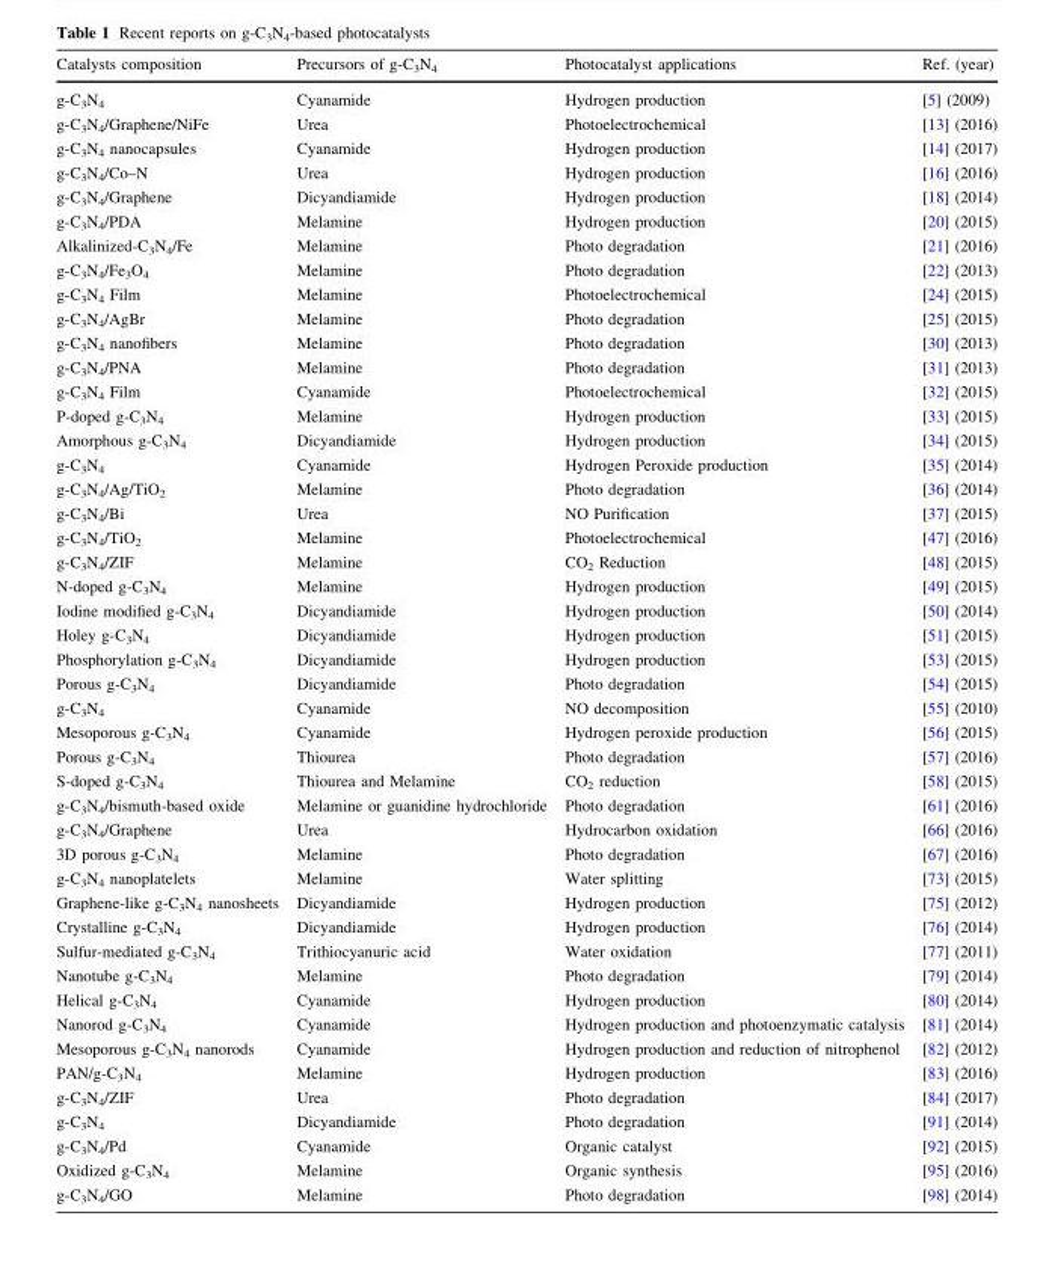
<table><thead><tr><td>Catalysts composition</td><td>Precursors of g-C<sub>3</sub>N<sub>4</sub></td><td>Photocatalyst applications</td><td>Ref. (year)</td></tr></thead><tbody><tr><td>g-C<sub>3</sub>N<sub>4</sub></td><td>Cyanamide</td><td>Hydrogen production</td><td>[5] (2009)</td></tr><tr><td>g-C<sub>3</sub>N<sub>4</sub>/Graphene/NiFe</td><td>Urea</td><td>Photoelectrochemical</td><td>[13] (2016)</td></tr><tr><td>g-C<sub>3</sub>N<sub>4</sub> nanocapsules</td><td>Cyanamide</td><td>Hydrogen production</td><td>[14] (2017)</td></tr><tr><td>g-C<sub>3</sub>N<sub>4</sub>/Co–N</td><td>Urea</td><td>Hydrogen production</td><td>[16] (2016)</td></tr><tr><td>g-C<sub>3</sub>N<sub>4</sub>/Graphene</td><td>Dicyandiamide</td><td>Hydrogen production</td><td>[18] (2014)</td></tr><tr><td>g-C<sub>3</sub>N<sub>4</sub>/PDA</td><td>Melamine</td><td>Hydrogen production</td><td>[20] (2015)</td></tr><tr><td>Alkalinized-C<sub>3</sub>N<sub>4</sub>/Fe</td><td>Melamine</td><td>Photo degradation</td><td>[21] (2016)</td></tr><tr><td>g-C<sub>3</sub>N<sub>4</sub>/Fe<sub>3</sub>O<sub>4</sub></td><td>Melamine</td><td>Photo degradation</td><td>[22] (2013)</td></tr><tr><td>g-C<sub>3</sub>N<sub>4</sub> Film</td><td>Melamine</td><td>Photoelectrochemical</td><td>[24] (2015)</td></tr><tr><td>g-C<sub>3</sub>N<sub>4</sub>/AgBr</td><td>Melamine</td><td>Photo degradation</td><td>[25] (2015)</td></tr><tr><td>g-C<sub>3</sub>N<sub>4</sub> nanofibers</td><td>Melamine</td><td>Photo degradation</td><td>[30] (2013)</td></tr><tr><td>g-C<sub>3</sub>N<sub>4</sub>/PNA</td><td>Melamine</td><td>Photo degradation</td><td>[31] (2013)</td></tr><tr><td>g-C<sub>3</sub>N<sub>4</sub> Film</td><td>Cyanamide</td><td>Photoelectrochemical</td><td>[32] (2015)</td></tr><tr><td>P-doped g-C<sub>3</sub>N<sub>4</sub></td><td>Melamine</td><td>Hydrogen production</td><td>[33] (2015)</td></tr><tr><td>Amorphous g-C<sub>3</sub>N<sub>4</sub></td><td>Dicyandiamide</td><td>Hydrogen production</td><td>[34] (2015)</td></tr><tr><td>g-C<sub>3</sub>N<sub>4</sub></td><td>Cyanamide</td><td>Hydrogen Peroxide production</td><td>[35] (2014)</td></tr><tr><td>g-C<sub>3</sub>N<sub>4</sub>/Ag/TiO<sub>2</sub></td><td>Melamine</td><td>Photo degradation</td><td>[36] (2014)</td></tr><tr><td>g-C<sub>3</sub>N<sub>4</sub>/Bi</td><td>Urea</td><td>NO Purification</td><td>[37] (2015)</td></tr><tr><td>g-C<sub>3</sub>N<sub>4</sub>/TiO<sub>2</sub></td><td>Melamine</td><td>Photoelectrochemical</td><td>[47] (2016)</td></tr><tr><td>g-C<sub>3</sub>N<sub>4</sub>/ZIF</td><td>Melamine</td><td>CO<sub>2</sub> Reduction</td><td>[48] (2015)</td></tr><tr><td>N-doped g-C<sub>3</sub>N<sub>4</sub></td><td>Melamine</td><td>Hydrogen production</td><td>[49] (2015)</td></tr><tr><td>Iodine modified g-C<sub>3</sub>N<sub>4</sub></td><td>Dicyandiamide</td><td>Hydrogen production</td><td>[50] (2014)</td></tr><tr><td>Holey g-C<sub>3</sub>N<sub>4</sub></td><td>Dicyandiamide</td><td>Hydrogen production</td><td>[51] (2015)</td></tr><tr><td>Phosphorylation g-C<sub>3</sub>N<sub>4</sub></td><td>Dicyandiamide</td><td>Hydrogen production</td><td>[53] (2015)</td></tr><tr><td>Porous g-C<sub>3</sub>N<sub>4</sub></td><td>Dicyandiamide</td><td>Photo degradation</td><td>[54] (2015)</td></tr><tr><td>g-C<sub>3</sub>N<sub>4</sub></td><td>Cyanamide</td><td>NO decomposition</td><td>[55] (2010)</td></tr><tr><td>Mesoporous g-C<sub>3</sub>N<sub>4</sub></td><td>Cyanamide</td><td>Hydrogen peroxide production</td><td>[56] (2015)</td></tr><tr><td>Porous g-C<sub>3</sub>N<sub>4</sub></td><td>Thiourea</td><td>Photo degradation</td><td>[57] (2016)</td></tr><tr><td>S-doped g-C<sub>3</sub>N<sub>4</sub></td><td>Thiourea and Melamine</td><td>CO<sub>2</sub> reduction</td><td>[58] (2015)</td></tr><tr><td>g-C<sub>3</sub>N<sub>4</sub>/bismuth-based oxide</td><td>Melamine or guanidine hydrochloride</td><td>Photo degradation</td><td>[61] (2016)</td></tr><tr><td>g-C<sub>3</sub>N<sub>4</sub>/Graphene</td><td>Urea</td><td>Hydrocarbon oxidation</td><td>[66] (2016)</td></tr><tr><td>3D porous g-C<sub>3</sub>N<sub>4</sub></td><td>Melamine</td><td>Photo degradation</td><td>[67] (2016)</td></tr><tr><td>g-C<sub>3</sub>N<sub>4</sub> nanoplatelets</td><td>Melamine</td><td>Water splitting</td><td>[73] (2015)</td></tr><tr><td>Graphene-like g-C<sub>3</sub>N<sub>4</sub> nanosheets</td><td>Dicyandiamide</td><td>Hydrogen production</td><td>[75] (2012)</td></tr><tr><td>Crystalline g-C<sub>3</sub>N<sub>4</sub></td><td>Dicyandiamide</td><td>Hydrogen production</td><td>[76] (2014)</td></tr><tr><td>Sulfur-mediated g-C<sub>3</sub>N<sub>4</sub></td><td>Trithiocyanuric acid</td><td>Water oxidation</td><td>[77] (2011)</td></tr><tr><td>Nanotube g-C<sub>3</sub>N<sub>4</sub></td><td>Melamine</td><td>Photo degradation</td><td>[79] (2014)</td></tr><tr><td>Helical g-C<sub>3</sub>N<sub>4</sub></td><td>Cyanamide</td><td>Hydrogen production</td><td>[80] (2014)</td></tr><tr><td>Nanorod g-C<sub>3</sub>N<sub>4</sub></td><td>Cyanamide</td><td>Hydrogen production and photoenzymatic catalysis</td><td>[81] (2014)</td></tr><tr><td>Mesoporous g-C<sub>3</sub>N<sub>4</sub> nanorods</td><td>Cyanamide</td><td>Hydrogen production and reduction of nitrophenol</td><td>[82] (2012)</td></tr><tr><td>PAN/g-C<sub>3</sub>N<sub>4</sub></td><td>Melamine</td><td>Hydrogen production</td><td>[83] (2016)</td></tr><tr><td>g-C<sub>3</sub>N<sub>4</sub>/ZIF</td><td>Urea</td><td>Photo degradation</td><td>[84] (2017)</td></tr><tr><td>g-C<sub>3</sub>N<sub>4</sub></td><td>Dicyandiamide</td><td>Photo degradation</td><td>[91] (2014)</td></tr><tr><td>g-C<sub>3</sub>N<sub>4</sub>/Pd</td><td>Cyanamide</td><td>Organic catalyst</td><td>[92] (2015)</td></tr><tr><td>Oxidized g-C<sub>3</sub>N<sub>4</sub></td><td>Melamine</td><td>Organic synthesis</td><td>[95] (2016)</td></tr><tr><td>g-C<sub>3</sub>N<sub>4</sub>/GO</td><td>Melamine</td><td>Photo degradation</td><td>[98] (2014)</td></tr></tbody></table>